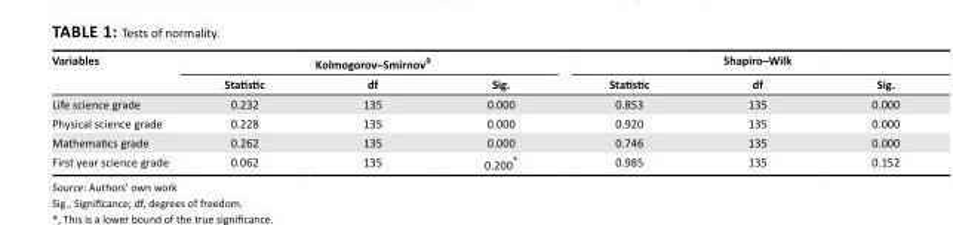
<table><thead><tr><td rowspan="2">Variables</td><td colspan="3">Kolmogorov–Smirnov<sup>a</sup></td><td colspan="3">Shapiro–Wilk</td></tr><tr><td>Statistic</td><td>df</td><td>Sig.</td><td>Statistic</td><td>df</td><td>Sig.</td></tr></thead><tbody><tr><td>Life science grade</td><td>0.232</td><td>135</td><td>0.000</td><td>0.853</td><td>135</td><td>0.000</td></tr><tr><td>Physical science grade</td><td>0.228</td><td>135</td><td>0.000</td><td>0.920</td><td>135</td><td>0.000</td></tr><tr><td>Mathematics grade</td><td>0.262</td><td>135</td><td>0.000</td><td>0.746</td><td>135</td><td>0.000</td></tr><tr><td>First year science grade</td><td>0.062</td><td>135</td><td>0.200*</td><td>0.985</td><td>135</td><td>0.152</td></tr></tbody></table>